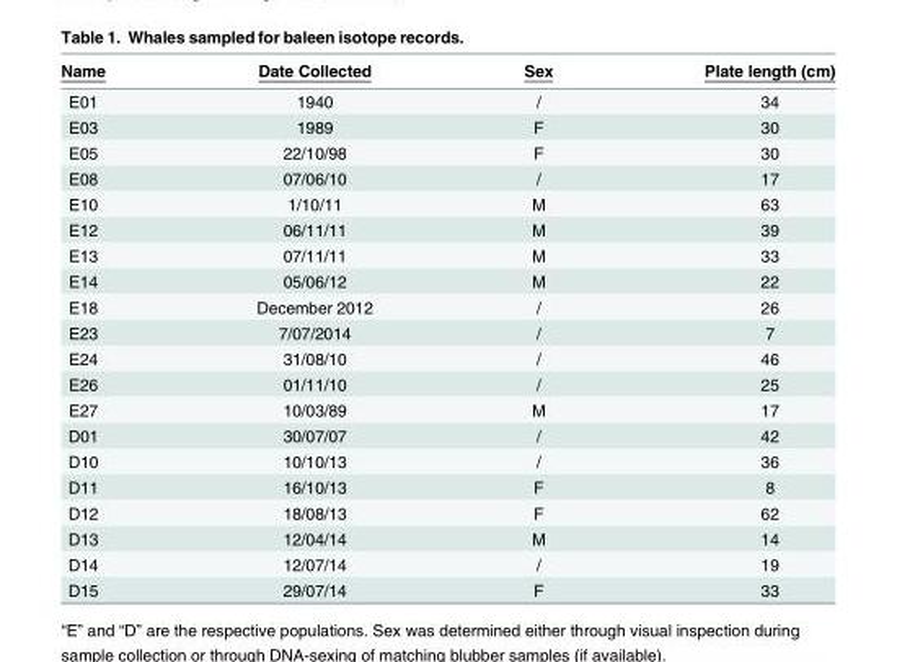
<table><thead><tr><td>Name</td><td>Date Collected</td><td>Sex</td><td>Plate length (cm)</td></tr></thead><tbody><tr><td>E01</td><td>1940</td><td>/</td><td>34</td></tr><tr><td>E03</td><td>1989</td><td>F</td><td>30</td></tr><tr><td>E05</td><td>22/10/98</td><td>F</td><td>30</td></tr><tr><td>E08</td><td>07/06/10</td><td>/</td><td>17</td></tr><tr><td>E10</td><td>1/10/11</td><td>M</td><td>63</td></tr><tr><td>E12</td><td>06/11/11</td><td>M</td><td>39</td></tr><tr><td>E13</td><td>07/11/11</td><td>M</td><td>33</td></tr><tr><td>E14</td><td>05/06/12</td><td>M</td><td>22</td></tr><tr><td>E18</td><td>December 2012</td><td>/</td><td>26</td></tr><tr><td>E23</td><td>7/07/2014</td><td>/</td><td>7</td></tr><tr><td>E24</td><td>31/08/10</td><td>/</td><td>46</td></tr><tr><td>E26</td><td>01/11/10</td><td>/</td><td>25</td></tr><tr><td>E27</td><td>10/03/89</td><td>M</td><td>17</td></tr><tr><td>D01</td><td>30/07/07</td><td>/</td><td>42</td></tr><tr><td>D10</td><td>10/10/13</td><td>/</td><td>36</td></tr><tr><td>D11</td><td>16/10/13</td><td>F</td><td>8</td></tr><tr><td>D12</td><td>18/08/13</td><td>F</td><td>62</td></tr><tr><td>D13</td><td>12/04/14</td><td>M</td><td>14</td></tr><tr><td>D14</td><td>12/07/14</td><td>/</td><td>19</td></tr><tr><td>D15</td><td>29/07/14</td><td>F</td><td>33</td></tr></tbody></table>